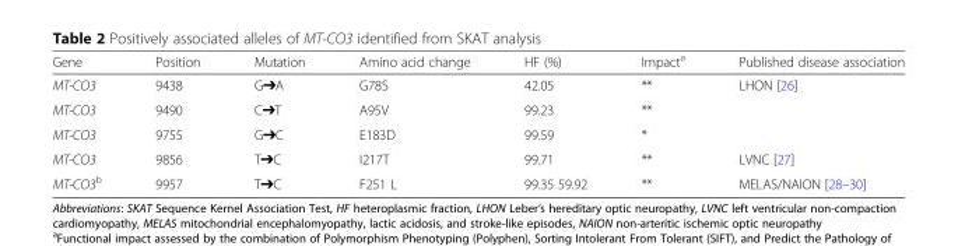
<table><thead><tr><td>Gene</td><td>Position</td><td>Mutation</td><td>Amino acid change</td><td>HF (%)</td><td>Impact<sup>a</sup></td><td>Published disease association</td></tr></thead><tbody><tr><td>MT-CO3</td><td>9438</td><td>G➔A</td><td>G78S</td><td>42.05</td><td>**</td><td>LHON [26]</td></tr><tr><td>MT-CO3</td><td>9490</td><td>C➔T</td><td>A95V</td><td>99.23</td><td>**</td><td></td></tr><tr><td>MT-CO3</td><td>9755</td><td>G➔C</td><td>E183D</td><td>99.59</td><td>*</td><td></td></tr><tr><td>MT-CO3</td><td>9856</td><td>T➔C</td><td>I217T</td><td>99.71</td><td>**</td><td>LVNC [27]</td></tr><tr><td>MT-CO3<sup>b</sup></td><td>9957</td><td>T➔C</td><td>F251 L</td><td>99.35 59.92</td><td>**</td><td>MELAS/NAION [28–30]</td></tr></tbody></table>